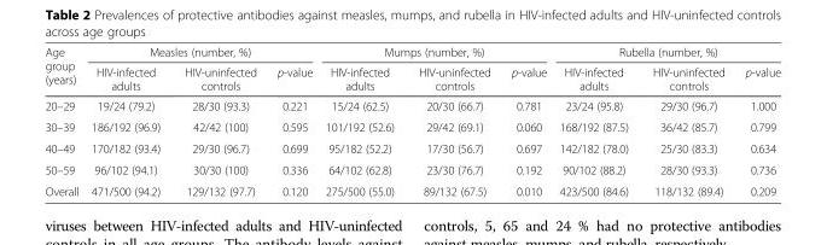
<table><thead><tr><td rowspan="2">Age group (years)</td><td colspan="3">Measles (number, %)</td><td colspan="3">Mumps (number, %)</td><td colspan="3">Rubella (number, %)</td></tr><tr><td>HIV-infected adults</td><td>HIV-uninfected controls</td><td>p-value</td><td>HIV-infected adults</td><td>HIV-uninfected controls</td><td>p-value</td><td>HIV-infected adults</td><td>HIV-uninfected controls</td><td>p-value</td></tr></thead><tbody><tr><td>20–29</td><td>19/24 (79.2)</td><td>28/30 (93.3)</td><td>0.221</td><td>15/24 (62.5)</td><td>20/30 (66.7)</td><td>0.781</td><td>23/24 (95.8)</td><td>29/30 (96.7)</td><td>1.000</td></tr><tr><td>30–39</td><td>186/192 (96.9)</td><td>42/42 (100)</td><td>0.595</td><td>101/192 (52.6)</td><td>29/42 (69.1)</td><td>0.060</td><td>168/192 (87.5)</td><td>36/42 (85.7)</td><td>0.799</td></tr><tr><td>40–49</td><td>170/182 (93.4)</td><td>29/30 (96.7)</td><td>0.699</td><td>95/182 (52.2)</td><td>17/30 (56.7)</td><td>0.697</td><td>142/182 (78.0)</td><td>25/30 (83.3)</td><td>0.634</td></tr><tr><td>50–59</td><td>96/102 (94.1)</td><td>30/30 (100)</td><td>0.336</td><td>64/102 (62.8)</td><td>23/30 (76.7)</td><td>0.192</td><td>90/102 (88.2)</td><td>28/30 (93.3)</td><td>0.736</td></tr><tr><td>Overall</td><td>471/500 (94.2)</td><td>129/132 (97.7)</td><td>0.120</td><td>275/500 (55.0)</td><td>89/132 (67.5)</td><td>0.010</td><td>423/500 (84.6)</td><td>118/132 (89.4)</td><td>0.209</td></tr></tbody></table>